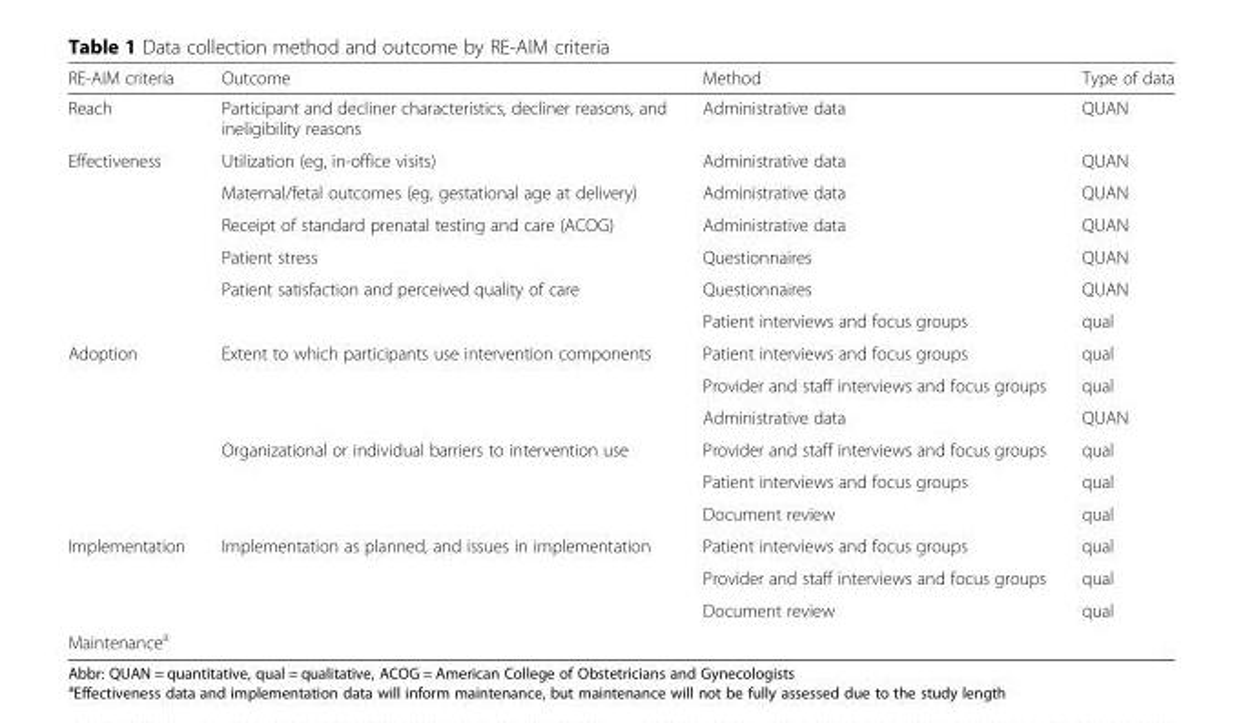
<table><thead><tr><td>RE-AIM criteria</td><td>Outcome</td><td>Method</td><td>Type of data</td></tr></thead><tbody><tr><td>Reach</td><td>Participant and decliner characteristics, decliner reasons, and ineligibility reasons</td><td>Administrative data</td><td>QUAN</td></tr><tr><td rowspan="6">Effectiveness</td><td>Utilization (eg, in-office visits)</td><td>Administrative data</td><td>QUAN</td></tr><tr><td>Maternal/fetal outcomes (eg, gestational age at delivery)</td><td>Administrative data</td><td>QUAN</td></tr><tr><td>Receipt of standard prenatal testing and care (ACOG)</td><td>Administrative data</td><td>QUAN</td></tr><tr><td>Patient stress</td><td>Questionnaires</td><td>QUAN</td></tr><tr><td rowspan="2">Patient satisfaction and perceived quality of care</td><td>Questionnaires</td><td>QUAN</td></tr><tr><td>Patient interviews and focus groups</td><td>qual</td></tr><tr><td rowspan="6">Adoption</td><td rowspan="3">Extent to which participants use intervention components</td><td>Patient interviews and focus groups</td><td>qual</td></tr><tr><td>Provider and staff interviews and focus groups</td><td>qual</td></tr><tr><td>Administrative data</td><td>QUAN</td></tr><tr><td rowspan="3">Organizational or individual barriers to intervention use</td><td>Provider and staff interviews and focus groups</td><td>qual</td></tr><tr><td>Patient interviews and focus groups</td><td>qual</td></tr><tr><td>Document review</td><td>qual</td></tr><tr><td rowspan="3">Implementation</td><td rowspan="3">Implementation as planned, and issues in implementation</td><td>Patient interviews and focus groups</td><td>qual</td></tr><tr><td>Provider and staff interviews and focus groups</td><td>qual</td></tr><tr><td>Document review</td><td>qual</td></tr><tr><td>Maintenance<sup>a</sup></td><td></td><td></td><td></td></tr></tbody></table>